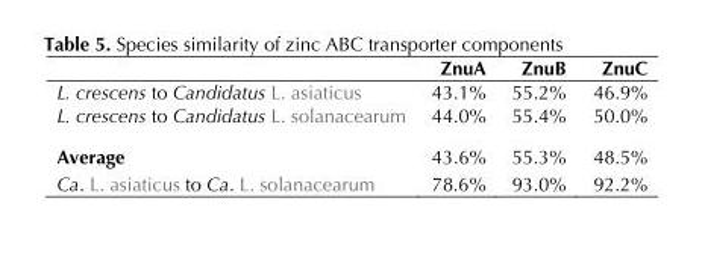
<table><thead><tr><td></td><td>ZnuA</td><td>ZnuB</td><td>ZnuC</td></tr></thead><tbody><tr><td>L. crescens to Candidatus L. asiaticus</td><td>43.1%</td><td>55.2%</td><td>46.9%</td></tr><tr><td>L. crescens to Candidatus L. solanacearum</td><td>44.0%</td><td>55.4%</td><td>50.0%</td></tr><tr><td>Average</td><td>43.6%</td><td>55.3%</td><td>48.5%</td></tr><tr><td>Ca. L. asiaticus to Ca. L. solanacearum</td><td>78.6%</td><td>93.0%</td><td>92.2%</td></tr></tbody></table>